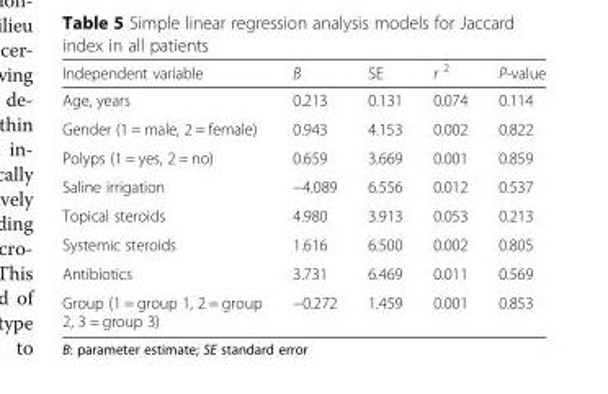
<table><thead><tr><td>Independent variable</td><td>B</td><td>SE</td><td>r <sup>2</sup></td><td>P-value</td></tr></thead><tbody><tr><td>Age, years</td><td>0.213</td><td>0.131</td><td>0.074</td><td>0.114</td></tr><tr><td>Gender (1 = male, 2 = female)</td><td>0.943</td><td>4.153</td><td>0.002</td><td>0.822</td></tr><tr><td>Polyps (1 = yes, 2 = no)</td><td>0.659</td><td>3.669</td><td>0.001</td><td>0.859</td></tr><tr><td>Saline irrigation</td><td>−4.089</td><td>6.556</td><td>0.012</td><td>0.537</td></tr><tr><td>Topical steroids</td><td>4.980</td><td>3.913</td><td>0.053</td><td>0.213</td></tr><tr><td>Systemic steroids</td><td>1.616</td><td>6.500</td><td>0.002</td><td>0.805</td></tr><tr><td>Antibiotics</td><td>3.731</td><td>6.469</td><td>0.011</td><td>0.569</td></tr><tr><td>Group (1 = group 1, 2 = group 2, 3 = group 3)</td><td>−0.272</td><td>1.459</td><td>0.001</td><td>0.853</td></tr></tbody></table>